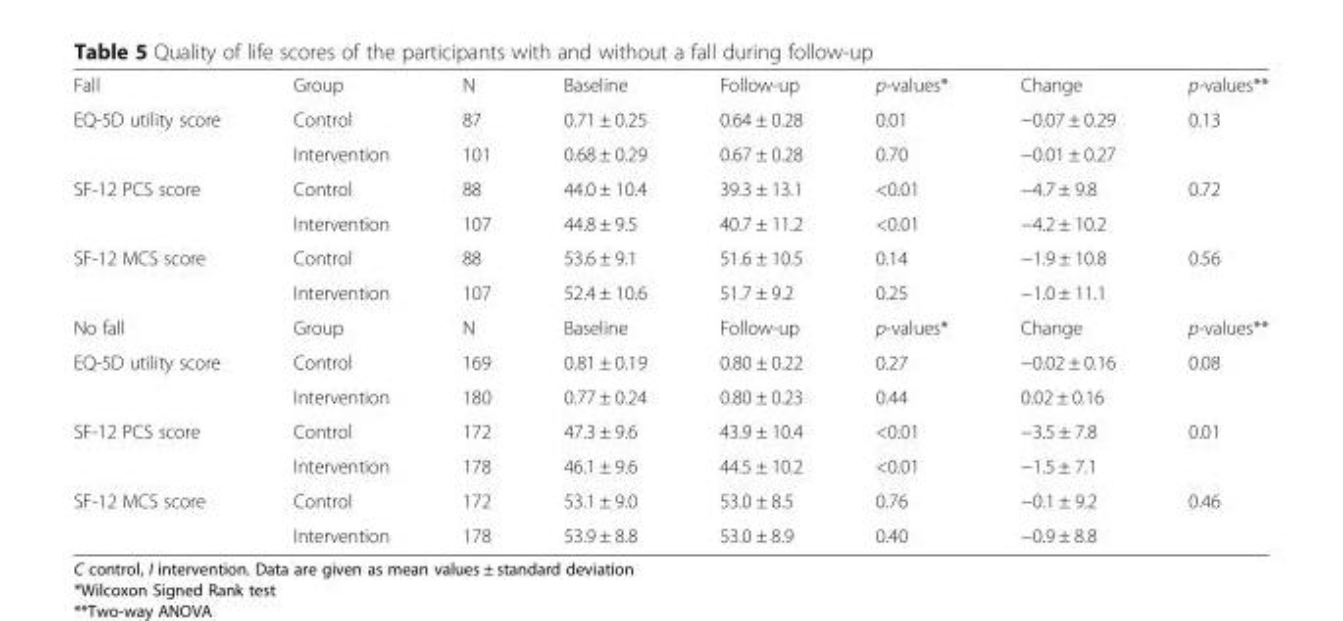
<table><tbody><tr><td>Fall</td><td>Group</td><td>N</td><td>Baseline</td><td>Follow-up</td><td>p-values*</td><td>Change</td><td>p-values**</td></tr><tr><td rowspan="2">EQ-5D utility score</td><td>Control</td><td>87</td><td>0.71 ± 0.25</td><td>0.64 ± 0.28</td><td>0.01</td><td>−0.07 ± 0.29</td><td>0.13</td></tr><tr><td>Intervention</td><td>101</td><td>0.68 ± 0.29</td><td>0.67 ± 0.28</td><td>0.70</td><td>−0.01 ± 0.27</td><td></td></tr><tr><td rowspan="2">SF-12 PCS score</td><td>Control</td><td>88</td><td>44.0 ± 10.4</td><td>39.3 ± 13.1</td><td>&lt;0.01</td><td>−4.7 ± 9.8</td><td>0.72</td></tr><tr><td>Intervention</td><td>107</td><td>44.8 ± 9.5</td><td>40.7 ± 11.2</td><td>&lt;0.01</td><td>−4.2 ± 10.2</td><td></td></tr><tr><td rowspan="2">SF-12 MCS score</td><td>Control</td><td>88</td><td>53.6 ± 9.1</td><td>51.6 ± 10.5</td><td>0.14</td><td>−1.9 ± 10.8</td><td>0.56</td></tr><tr><td>Intervention</td><td>107</td><td>52.4 ± 10.6</td><td>51.7 ± 9.2</td><td>0.25</td><td>−1.0 ± 11.1</td><td></td></tr><tr><td>No fall</td><td>Group</td><td>N</td><td>Baseline</td><td>Follow-up</td><td>p-values*</td><td>Change</td><td>p-values**</td></tr><tr><td rowspan="2">EQ-5D utility score</td><td>Control</td><td>169</td><td>0.81 ± 0.19</td><td>0.80 ± 0.22</td><td>0.27</td><td>−0.02 ± 0.16</td><td>0.08</td></tr><tr><td>Intervention</td><td>180</td><td>0.77 ± 0.24</td><td>0.80 ± 0.23</td><td>0.44</td><td>0.02 ± 0.16</td><td></td></tr><tr><td rowspan="2">SF-12 PCS score</td><td>Control</td><td>172</td><td>47.3 ± 9.6</td><td>43.9 ± 10.4</td><td>&lt;0.01</td><td>−3.5 ± 7.8</td><td>0.01</td></tr><tr><td>Intervention</td><td>178</td><td>46.1 ± 9.6</td><td>44.5 ± 10.2</td><td>&lt;0.01</td><td>−1.5 ± 7.1</td><td></td></tr><tr><td rowspan="2">SF-12 MCS score</td><td>Control</td><td>172</td><td>53.1 ± 9.0</td><td>53.0 ± 8.5</td><td>0.76</td><td>−0.1 ± 9.2</td><td>0.46</td></tr><tr><td>Intervention</td><td>178</td><td>53.9 ± 8.8</td><td>53.0 ± 8.9</td><td>0.40</td><td>−0.9 ± 8.8</td><td></td></tr></tbody></table>